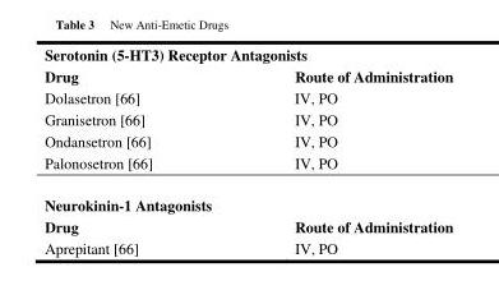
<table><thead><tr><td colspan="2">Serotonin (5-HT3) Receptor Antagonists</td></tr><tr><td>Drug</td><td>Route of Administration</td></tr></thead><tbody><tr><td>Dolasetron [66]</td><td>IV, PO</td></tr><tr><td>Granisetron [66]</td><td>IV, PO</td></tr><tr><td>Ondansetron [66]</td><td>IV, PO</td></tr><tr><td>Palonosetron [66]</td><td>IV, PO</td></tr><tr><td colspan="2">Neurokinin-1 Antagonists</td></tr><tr><td>Drug</td><td>Route of Administration</td></tr><tr><td>Aprepitant [66]</td><td>IV, PO</td></tr></tbody></table>